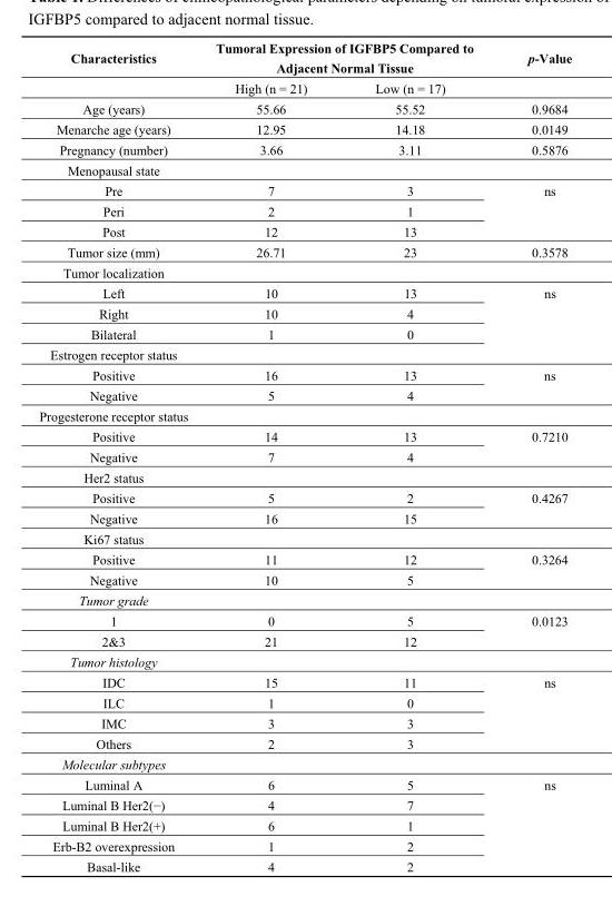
<table><thead><tr><td rowspan="2">Characteristics</td><td colspan="2">Tumoral Expression of IGFBP5 Compared to Adjacent Normal Tissue</td><td rowspan="2">p-Value</td></tr><tr><td>High (n = 21)</td><td>Low (n = 17)</td></tr></thead><tbody><tr><td>Age (years)</td><td>55.66</td><td>55.52</td><td>0.9684</td></tr><tr><td>Menarche age (years)</td><td>12.95</td><td>14.18</td><td>0.0149</td></tr><tr><td>Pregnancy (number)</td><td>3.66</td><td>3.11</td><td>0.5876</td></tr><tr><td colspan="4">Menopausal state</td></tr><tr><td>Pre</td><td>7</td><td>3</td><td>ns</td></tr><tr><td>Peri</td><td>2</td><td>1</td><td></td></tr><tr><td>Post</td><td>12</td><td>13</td><td></td></tr><tr><td>Tumor size (mm)</td><td>26.71</td><td>23</td><td>0.3578</td></tr><tr><td colspan="4">Tumor localization</td></tr><tr><td>Left</td><td>10</td><td>13</td><td>ns</td></tr><tr><td>Right</td><td>10</td><td>4</td><td></td></tr><tr><td>Bilateral</td><td>1</td><td>0</td><td></td></tr><tr><td colspan="4">Estrogen receptor status</td></tr><tr><td>Positive</td><td>16</td><td>13</td><td>ns</td></tr><tr><td>Negative</td><td>5</td><td>4</td><td></td></tr><tr><td colspan="4">Progesterone receptor status</td></tr><tr><td>Positive</td><td>14</td><td>13</td><td>0.7210</td></tr><tr><td>Negative</td><td>7</td><td>4</td><td></td></tr><tr><td colspan="4">Her2 status</td></tr><tr><td>Positive</td><td>5</td><td>2</td><td>0.4267</td></tr><tr><td>Negative</td><td>16</td><td>15</td><td></td></tr><tr><td colspan="4">Ki67 status</td></tr><tr><td>Positive</td><td>11</td><td>12</td><td>0.3264</td></tr><tr><td>Negative</td><td>10</td><td>5</td><td></td></tr><tr><td colspan="4">Tumor grade</td></tr><tr><td>1</td><td>0</td><td>5</td><td>0.0123</td></tr><tr><td>2&amp;3</td><td>21</td><td>12</td><td></td></tr><tr><td colspan="4">Tumor histology</td></tr><tr><td>IDC</td><td>15</td><td>11</td><td>ns</td></tr><tr><td>ILC</td><td>1</td><td>0</td><td></td></tr><tr><td>IMC</td><td>3</td><td>3</td><td></td></tr><tr><td>Others</td><td>2</td><td>3</td><td></td></tr><tr><td colspan="4">Molecular subtypes</td></tr><tr><td>Luminal A</td><td>6</td><td>5</td><td>ns</td></tr><tr><td>Luminal B Her2(−)</td><td>4</td><td>7</td><td></td></tr><tr><td>Luminal B Her2(+)</td><td>6</td><td>1</td><td></td></tr><tr><td>Erb-B2 overexpression</td><td>1</td><td>2</td><td></td></tr><tr><td>Basal-like</td><td>4</td><td>2</td><td></td></tr></tbody></table>